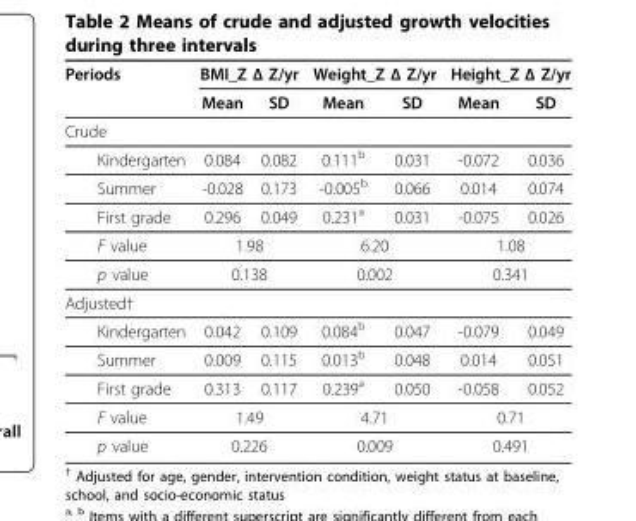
<table><thead><tr><td rowspan="2">Periods</td><td colspan="2">BMI_Z Δ Z/yr</td><td colspan="2">Weight_Z Δ Z/yr</td><td colspan="2">Height_Z Δ Z/yr</td></tr><tr><td>Mean</td><td>SD</td><td>Mean</td><td>SD</td><td>Mean</td><td>SD</td></tr></thead><tbody><tr><td colspan="7">Crude</td></tr><tr><td>Kindergarten</td><td>0.084</td><td>0.082</td><td>0.111<sup>b</sup></td><td>0.031</td><td>-0.072</td><td>0.036</td></tr><tr><td>Summer</td><td>-0.028</td><td>0.173</td><td>-0.005<sup>b</sup></td><td>0.066</td><td>0.014</td><td>0.074</td></tr><tr><td>First grade</td><td>0.296</td><td>0.049</td><td>0.231<sup>a</sup></td><td>0.031</td><td>-0.075</td><td>0.026</td></tr><tr><td>F value</td><td colspan="2">1.98</td><td colspan="2">6.20</td><td colspan="2">1.08</td></tr><tr><td>p value</td><td colspan="2">0.138</td><td colspan="2">0.002</td><td colspan="2">0.341</td></tr><tr><td colspan="7">Adjusted†</td></tr><tr><td>Kindergarten</td><td>0.042</td><td>0.109</td><td>0.084<sup>b</sup></td><td>0.047</td><td>-0.079</td><td>0.049</td></tr><tr><td>Summer</td><td>0.009</td><td>0.115</td><td>0.013<sup>b</sup></td><td>0.048</td><td>0.014</td><td>0.051</td></tr><tr><td>First grade</td><td>0.313</td><td>0.117</td><td>0.239<sup>a</sup></td><td>0.050</td><td>-0.058</td><td>0.052</td></tr><tr><td>F value</td><td colspan="2">1.49</td><td colspan="2">4.71</td><td colspan="2">0.71</td></tr><tr><td>p value</td><td colspan="2">0.226</td><td colspan="2">0.009</td><td colspan="2">0.491</td></tr></tbody></table>